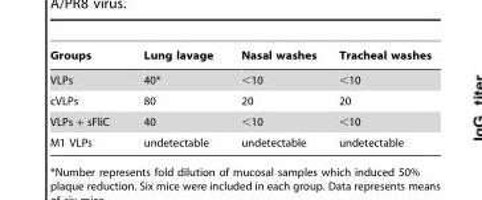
<table><thead><tr><td>Groups</td><td>Lung lavage</td><td>Nasal washes</td><td>Tracheal washes</td></tr></thead><tbody><tr><td>VLPs</td><td>40*</td><td>&lt;10</td><td>&lt;10</td></tr><tr><td>cVLPs</td><td>80</td><td>20</td><td>20</td></tr><tr><td>VLPs + sFliC</td><td>40</td><td>&lt;10</td><td>&lt;10</td></tr><tr><td>M1 VLPs</td><td>undetectable</td><td>undetectable</td><td>undetectable</td></tr></tbody></table>